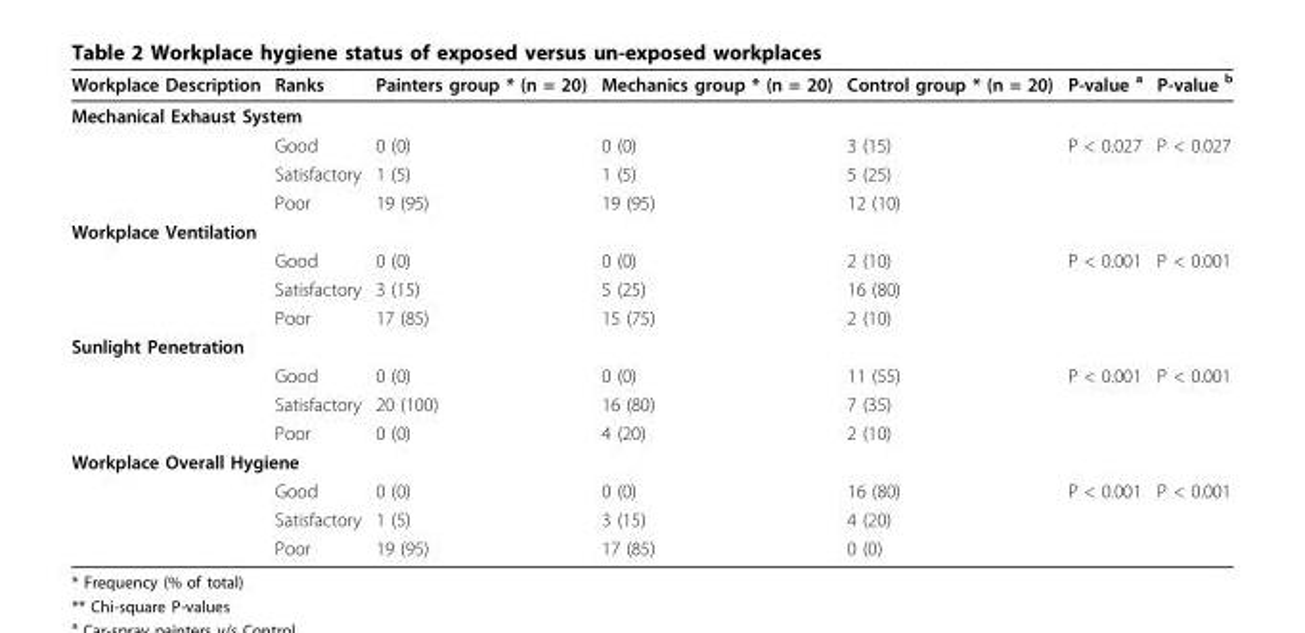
<table><thead><tr><td>Workplace Description</td><td>Ranks</td><td>Painters group * (n = 20)</td><td>Mechanics group * (n = 20)</td><td>Control group * (n = 20)</td><td>P-value <sup>a</sup></td><td>P-value <sup>b</sup></td></tr></thead><tbody><tr><td colspan="7">Mechanical Exhaust System</td></tr><tr><td></td><td>Good</td><td>0 (0)</td><td>0 (0)</td><td>3 (15)</td><td>P &lt; 0.027</td><td>P &lt; 0.027</td></tr><tr><td></td><td>Satisfactory</td><td>1 (5)</td><td>1 (5)</td><td>5 (25)</td><td></td><td></td></tr><tr><td></td><td>Poor</td><td>19 (95)</td><td>19 (95)</td><td>12 (10)</td><td></td><td></td></tr><tr><td colspan="7">Workplace Ventilation</td></tr><tr><td></td><td>Good</td><td>0 (0)</td><td>0 (0)</td><td>2 (10)</td><td>P &lt; 0.001</td><td>P &lt; 0.001</td></tr><tr><td></td><td>Satisfactory</td><td>3 (15)</td><td>5 (25)</td><td>16 (80)</td><td></td><td></td></tr><tr><td></td><td>Poor</td><td>17 (85)</td><td>15 (75)</td><td>2 (10)</td><td></td><td></td></tr><tr><td colspan="7">Sunlight Penetration</td></tr><tr><td></td><td>Good</td><td>0 (0)</td><td>0 (0)</td><td>11 (55)</td><td>P &lt; 0.001</td><td>P &lt; 0.001</td></tr><tr><td></td><td>Satisfactory</td><td>20 (100)</td><td>16 (80)</td><td>7 (35)</td><td></td><td></td></tr><tr><td></td><td>Poor</td><td>0 (0)</td><td>4 (20)</td><td>2 (10)</td><td></td><td></td></tr><tr><td colspan="7">Workplace Overall Hygiene</td></tr><tr><td></td><td>Good</td><td>0 (0)</td><td>0 (0)</td><td>16 (80)</td><td>P &lt; 0.001</td><td>P &lt; 0.001</td></tr><tr><td></td><td>Satisfactory</td><td>1 (5)</td><td>3 (15)</td><td>4 (20)</td><td></td><td></td></tr><tr><td></td><td>Poor</td><td>19 (95)</td><td>17 (85)</td><td>0 (0)</td><td></td><td></td></tr></tbody></table>